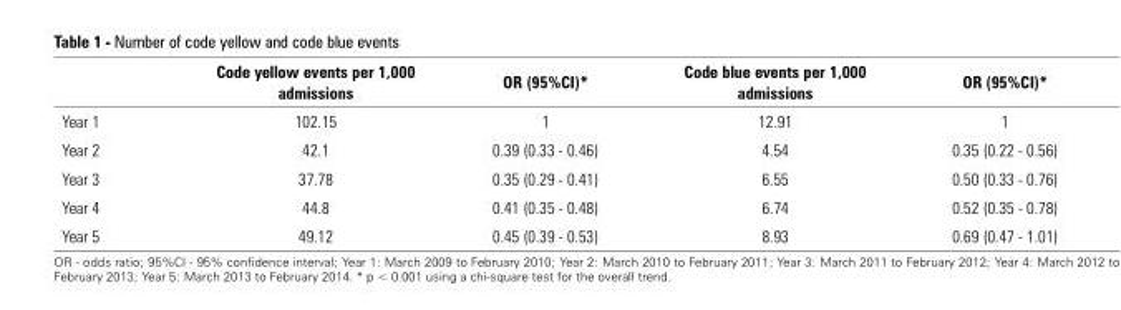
<table><thead><tr><td></td><td>Code yellow events per 1,000 admissions</td><td>OR (95%CI)*</td><td>Code blue events per 1,000 admissions</td><td>OR (95%CI)*</td></tr></thead><tbody><tr><td>Year 1</td><td>102.15</td><td>1</td><td>12.91</td><td>1</td></tr><tr><td>Year 2</td><td>42.1</td><td>0.39 (0.33 - 0.46)</td><td>4.54</td><td>0.35 (0.22 - 0.56)</td></tr><tr><td>Year 3</td><td>37.78</td><td>0.35 (0.29 - 0.41)</td><td>6.55</td><td>0.50 (0.33 - 0.76)</td></tr><tr><td>Year 4</td><td>44.8</td><td>0.41 (0.35 - 0.48)</td><td>6.74</td><td>0.52 (0.35 - 0.78)</td></tr><tr><td>Year 5</td><td>49.12</td><td>0.45 (0.39 - 0.53)</td><td>8.93</td><td>0.69 (0.47 - 1.01)</td></tr></tbody></table>